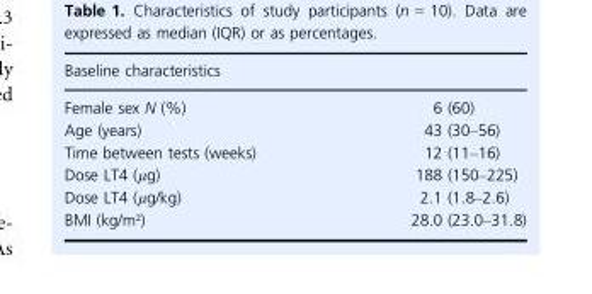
<table><thead><tr><td colspan="2">Baseline characteristics</td></tr><tr><td>Female sex N (%)</td><td>6 (60)</td></tr></thead><tbody><tr><td>Age (years)</td><td>43 (30–56)</td></tr><tr><td>Time between tests (weeks)</td><td>12 (11–16)</td></tr><tr><td>Dose LT4 (μg)</td><td>188 (150–225)</td></tr><tr><td>Dose LT4 (μg/kg)</td><td>2.1 (1.8–2.6)</td></tr><tr><td>BMI (kg/m²)</td><td>28.0 (23.0–31.8)</td></tr></tbody></table>